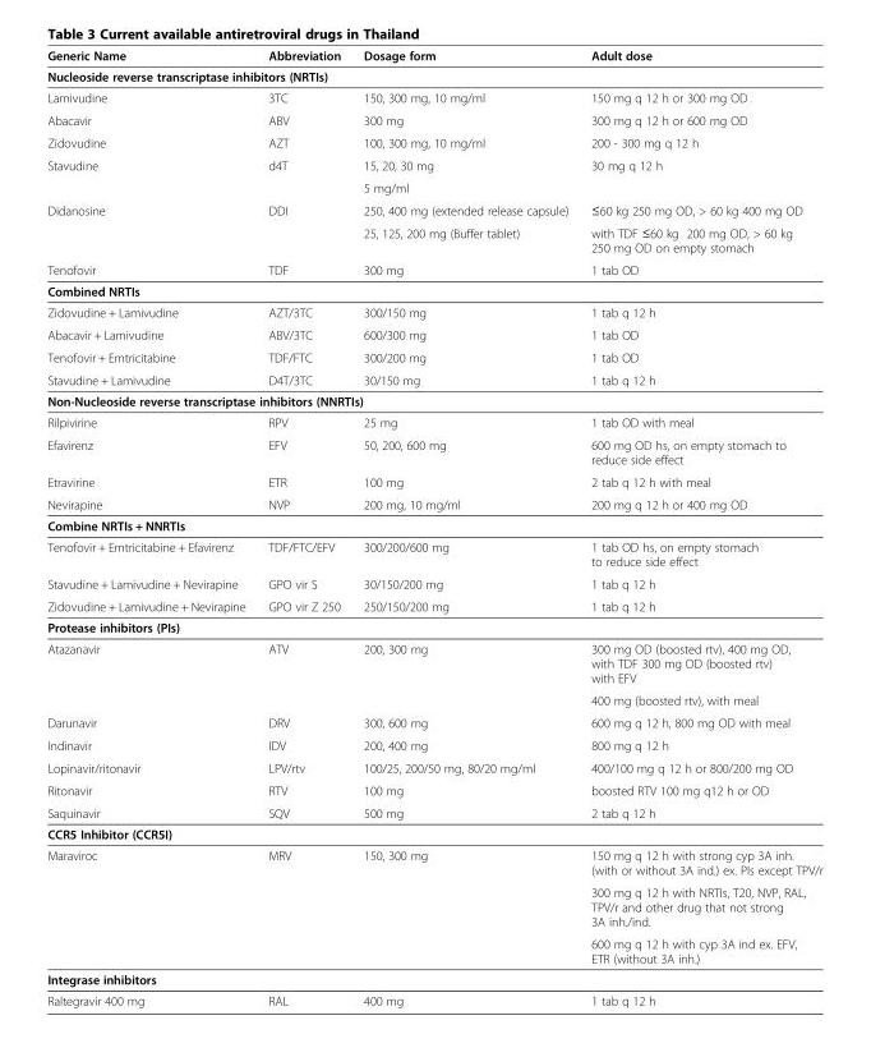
<table><thead><tr><td>Generic Name</td><td>Abbreviation</td><td>Dosage form</td><td>Adult dose</td></tr></thead><tbody><tr><td colspan="4">Nucleoside reverse transcriptase inhibitors (NRTIs)</td></tr><tr><td>Lamivudine</td><td>3TC</td><td>150, 300 mg, 10 mg/ml</td><td>150 mg q 12 h or 300 mg OD</td></tr><tr><td>Abacavir</td><td>ABV</td><td>300 mg</td><td>300 mg q 12 h or 600 mg OD</td></tr><tr><td>Zidovudine</td><td>AZT</td><td>100, 300 mg, 10 mg/ml</td><td>200 - 300 mg q 12 h</td></tr><tr><td rowspan="2">Stavudine</td><td rowspan="2">d4T</td><td>15, 20, 30 mg</td><td rowspan="2">30 mg q 12 h</td></tr><tr><td>5 mg/ml</td></tr><tr><td rowspan="2">Didanosine</td><td rowspan="2">DDI</td><td>250, 400 mg (extended release capsule)</td><td>≤60 kg 250 mg OD, &gt; 60 kg 400 mg OD</td></tr><tr><td>25, 125, 200 mg (Buffer tablet)</td><td>with TDF ≤60 kg 200 mg OD, &gt; 60 kg 250 mg OD on empty stomach</td></tr><tr><td>Tenofovir</td><td>TDF</td><td>300 mg</td><td>1 tab OD</td></tr><tr><td colspan="4">Combined NRTIs</td></tr><tr><td>Zidovudine + Lamivudine</td><td>AZT/3TC</td><td>300/150 mg</td><td>1 tab q 12 h</td></tr><tr><td>Abacavir + Lamivudine</td><td>ABV/3TC</td><td>600/300 mg</td><td>1 tab OD</td></tr><tr><td>Tenofovir + Emtricitabine</td><td>TDF/FTC</td><td>300/200 mg</td><td>1 tab OD</td></tr><tr><td>Stavudine + Lamivudine</td><td>D4T/3TC</td><td>30/150 mg</td><td>1 tab q 12 h</td></tr><tr><td colspan="4">Non-Nucleoside reverse transcriptase inhibitors (NNRTIs)</td></tr><tr><td>Rilpivirine</td><td>RPV</td><td>25 mg</td><td>1 tab OD with meal</td></tr><tr><td>Efavirenz</td><td>EFV</td><td>50, 200, 600 mg</td><td>600 mg OD hs, on empty stomach to reduce side effect</td></tr><tr><td>Etravirine</td><td>ETR</td><td>100 mg</td><td>2 tab q 12 h with meal</td></tr><tr><td>Nevirapine</td><td>NVP</td><td>200 mg, 10 mg/ml</td><td>200 mg q 12 h or 400 mg OD</td></tr><tr><td colspan="4">Combine NRTIs + NNRTIs</td></tr><tr><td>Tenofovir + Emtricitabine + Efavirenz</td><td>TDF/FTC/EFV</td><td>300/200/600 mg</td><td>1 tab OD hs, on empty stomach to reduce side effect</td></tr><tr><td>Stavudine + Lamivudine + Nevirapine</td><td>GPO vir S</td><td>30/150/200 mg</td><td>1 tab q 12 h</td></tr><tr><td>Zidovudine + Lamivudine + Nevirapine</td><td>GPO vir Z 250</td><td>250/150/200 mg</td><td>1 tab q 12 h</td></tr><tr><td colspan="4">Protease inhibitors (PIs)</td></tr><tr><td rowspan="2">Atazanavir</td><td rowspan="2">ATV</td><td rowspan="2">200, 300 mg</td><td>300 mg OD (boosted rtv), 400 mg OD, with TDF 300 mg OD (boosted rtv) with EFV</td></tr><tr><td>400 mg (boosted rtv), with meal</td></tr><tr><td>Darunavir</td><td>DRV</td><td>300, 600 mg</td><td>600 mg q 12 h, 800 mg OD with meal</td></tr><tr><td>Indinavir</td><td>IDV</td><td>200, 400 mg</td><td>800 mg q 12 h</td></tr><tr><td>Lopinavir/ritonavir</td><td>LPV/rtv</td><td>100/25, 200/50 mg, 80/20 mg/ml</td><td>400/100 mg q 12 h or 800/200 mg OD</td></tr><tr><td>Ritonavir</td><td>RTV</td><td>100 mg</td><td>boosted RTV 100 mg q12 h or OD</td></tr><tr><td>Saquinavir</td><td>SQV</td><td>500 mg</td><td>2 tab q 12 h</td></tr><tr><td colspan="4">CCR5 Inhibitor (CCR5I)</td></tr><tr><td rowspan="3">Maraviroc</td><td>MRV</td><td>150, 300 mg</td><td>150 mg q 12 h with strong cyp 3A inh. (with or without 3A ind.) ex. PIs except TPV/r</td></tr><tr><td></td><td></td><td>300 mg q 12 h with NRTIs, T20, NVP, RAL, TPV/r and other drug that not strong 3A inh./ind.</td></tr><tr><td></td><td></td><td>600 mg q 12 h with cyp 3A ind ex. EFV, ETR (without 3A inh.)</td></tr><tr><td colspan="4">Integrase inhibitors</td></tr><tr><td>Raltegravir 400 mg</td><td>RAL</td><td>400 mg</td><td>1 tab q 12 h</td></tr></tbody></table>